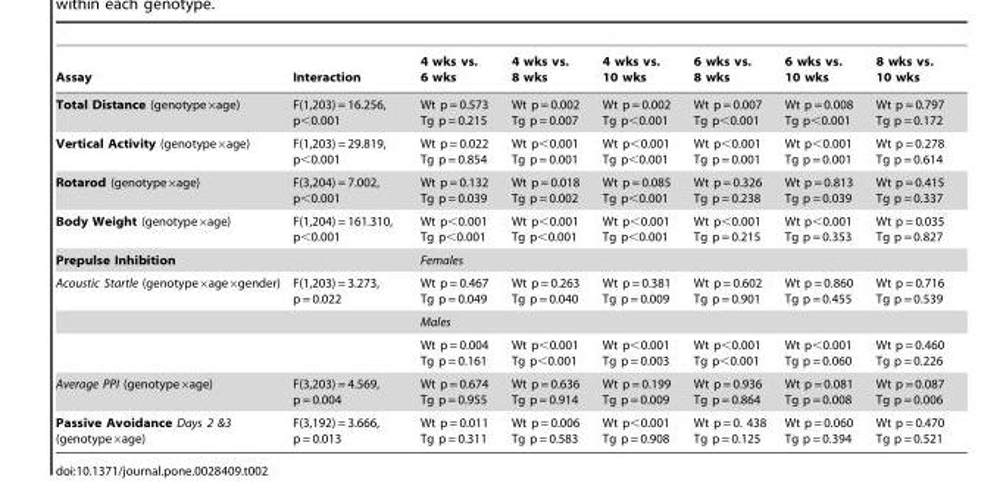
<table><thead><tr><td>Assay</td><td>Interaction</td><td>4 wks vs. 6 wks</td><td>4 wks vs. 8 wks</td><td>4 wks vs. 10 wks</td><td>6 wks vs. 8 wks</td><td>6 wks vs. 10 wks</td><td>8 wks vs. 10 wks</td></tr></thead><tbody><tr><td>Total Distance (genotype×age)</td><td>F(1,203) = 16.256, p&lt;0.001</td><td>Wt p = 0.573 Tg p = 0.215</td><td>Wt p = 0.002 Tg p = 0.007</td><td>Wt p = 0.002 Tg p&lt;0.001</td><td>Wt p = 0.007 Tg p&lt;0.001</td><td>Wt p = 0.008 Tg p&lt;0.001</td><td>Wt p = 0.797 Tg p = 0.172</td></tr><tr><td>Vertical Activity (genotype×age)</td><td>F(1,203) = 29.819, p&lt;0.001</td><td>Wt p = 0.022 Tg p = 0.854</td><td>Wt p&lt;0.001 Tg p = 0.001</td><td>Wt p&lt;0.001 Tg p&lt;0.001</td><td>Wt p&lt;0.001 Tg p = 0.001</td><td>Wt p&lt;0.001 Tg p = 0.001</td><td>Wt p = 0.278 Tg p = 0.614</td></tr><tr><td>Rotarod (genotype×age)</td><td>F(3,204) = 7.002, p&lt;0.001</td><td>Wt p = 0.132 Tg p = 0.039</td><td>Wt p = 0.018 Tg p = 0.002</td><td>Wt p = 0.085 Tg p&lt;0.001</td><td>Wt p = 0.326 Tg p = 0.238</td><td>Wt p = 0.813 Tg p = 0.039</td><td>Wt p = 0.415 Tg p = 0.337</td></tr><tr><td>Body Weight (genotype×age)</td><td>F(1,204) = 161.310, p&lt;0.001</td><td>Wt p&lt;0.001 Tg p&lt;0.001</td><td>Wt p&lt;0.001 Tg p&lt;0.001</td><td>Wt p&lt;0.001 Tg p&lt;0.001</td><td>Wt p&lt;0.001 Tg p = 0.215</td><td>Wt p&lt;0.001 Tg p = 0.353</td><td>Wt p = 0.035 Tg p = 0.827</td></tr><tr><td>Prepulse Inhibition</td><td></td><td colspan="6">Females</td></tr><tr><td rowspan="3">Acoustic Startle (genotype×age×gender)</td><td>F(1,203) = 3.273, p = 0.022</td><td>Wt p = 0.467 Tg p = 0.049</td><td>Wt p = 0.263 Tg p = 0.040</td><td>Wt p = 0.381 Tg p = 0.009</td><td>Wt p = 0.602 Tg p = 0.901</td><td>Wt p = 0.860 Tg p = 0.455</td><td>Wt p = 0.716 Tg p = 0.539</td></tr><tr><td></td><td colspan="6">Males</td></tr><tr><td></td><td>Wt p = 0.004 Tg p = 0.161</td><td>Wt p&lt;0.001 Tg p&lt;0.001</td><td>Wt p&lt;0.001 Tg p = 0.003</td><td>Wt p&lt;0.001 Tg p&lt;0.001</td><td>Wt p&lt;0.001 Tg p = 0.060</td><td>Wt p = 0.460 Tg p = 0.226</td></tr><tr><td>Average PPI (genotype×age)</td><td>F(3,203) = 4.569, p = 0.004</td><td>Wt p = 0.674 Tg p = 0.955</td><td>Wt p = 0.636 Tg p = 0.914</td><td>Wt p = 0.199 Tg p = 0.009</td><td>Wt p = 0.936 Tg p = 0.864</td><td>Wt p = 0.081 Tg p = 0.008</td><td>Wt p = 0.087 Tg p = 0.006</td></tr><tr><td>Passive Avoidance Days 2 &amp;3 (genotype×age)</td><td>F(3,192) = 3.666, p = 0.013</td><td>Wt p = 0.011 Tg p = 0.311</td><td>Wt p = 0.006 Tg p = 0.583</td><td>Wt p&lt;0.001 Tg p = 0.908</td><td>Wt p = 0. 438 Tg p = 0.125</td><td>Wt p = 0.060 Tg p = 0.394</td><td>Wt p = 0.470 Tg p = 0.521</td></tr></tbody></table>